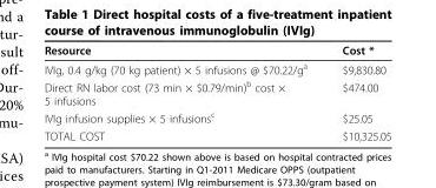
<table><thead><tr><td>Resource</td><td>Cost *</td></tr></thead><tbody><tr><td>IVIg, 0.4 g/kg (70 kg patient) × 5 infusions @ $70.22/g<sup>a</sup></td><td>$9,830.80</td></tr><tr><td>Direct RN labor cost (73 min × $0.79/min)<sup>b</sup> cost × 5 infusions</td><td>$474.00</td></tr><tr><td>IVIg infusion supplies × 5 infusions<sup>c</sup></td><td>$25.05</td></tr><tr><td>TOTAL COST</td><td>$10,325.05</td></tr></tbody></table>